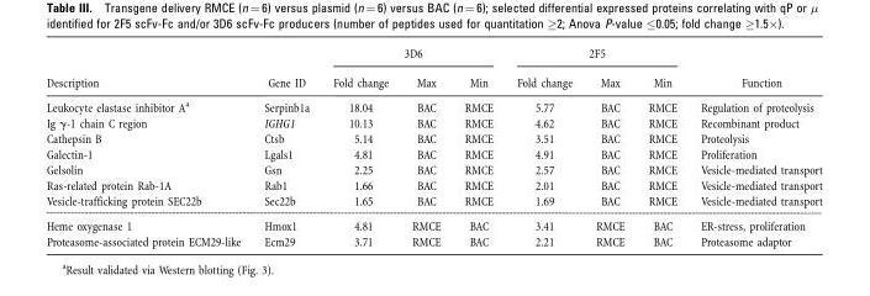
<table><thead><tr><td rowspan="2">Description</td><td rowspan="2">Gene ID</td><td colspan="3">3D6</td><td colspan="3">2F5</td><td rowspan="2">Function</td></tr><tr><td>Fold change</td><td>Max</td><td>Min</td><td>Fold change</td><td>Max</td><td>Min</td></tr></thead><tbody><tr><td>Leukocyte elastase inhibitor A<sup>a</sup></td><td>Serpinb1a</td><td>18.04</td><td>BAC</td><td>RMCE</td><td>5.77</td><td>BAC</td><td>RMCE</td><td>Regulation of proteolysis</td></tr><tr><td>Ig γ-1 chain C region</td><td>IGHG1</td><td>10.13</td><td>BAC</td><td>RMCE</td><td>4.62</td><td>BAC</td><td>RMCE</td><td>Recombinant product</td></tr><tr><td>Cathepsin B</td><td>Ctsb</td><td>5.14</td><td>BAC</td><td>RMCE</td><td>3.51</td><td>BAC</td><td>RMCE</td><td>Proteolysis</td></tr><tr><td>Galectin-1</td><td>Lgals1</td><td>4.81</td><td>BAC</td><td>RMCE</td><td>4.91</td><td>BAC</td><td>RMCE</td><td>Proliferation</td></tr><tr><td>Gelsolin</td><td>Gsn</td><td>2.25</td><td>BAC</td><td>RMCE</td><td>2.57</td><td>BAC</td><td>RMCE</td><td>Vesicle-mediated transport</td></tr><tr><td>Ras-related protein Rab-1A</td><td>Rab1</td><td>1.66</td><td>BAC</td><td>RMCE</td><td>2.01</td><td>BAC</td><td>RMCE</td><td>Vesicle-mediated transport</td></tr><tr><td>Vesicle-trafficking protein SEC22b</td><td>Sec22b</td><td>1.65</td><td>BAC</td><td>RMCE</td><td>1.69</td><td>BAC</td><td>RMCE</td><td>Vesicle-mediated transport</td></tr><tr><td>Heme oxygenase 1</td><td>Hmox1</td><td>4.81</td><td>RMCE</td><td>BAC</td><td>3.41</td><td>RMCE</td><td>BAC</td><td>ER-stress, proliferation</td></tr><tr><td>Proteasome-associated protein ECM29-like</td><td>Ecm29</td><td>3.71</td><td>RMCE</td><td>BAC</td><td>2.21</td><td>RMCE</td><td>BAC</td><td>Proteasome adaptor</td></tr></tbody></table>